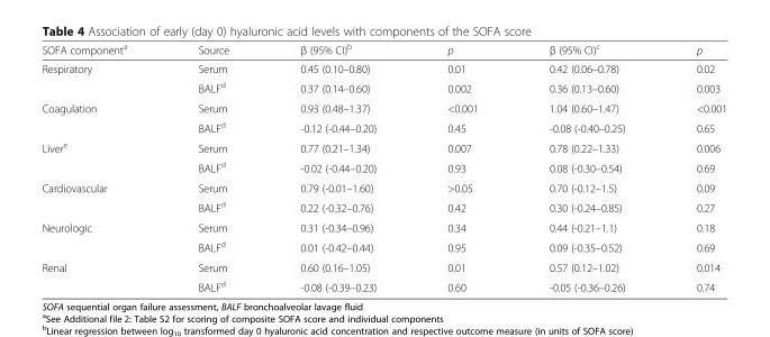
<table><thead><tr><td>SOFA component<sup>a</sup></td><td>Source</td><td>β (95% CI)<sup>b</sup></td><td>p</td><td>β (95% CI)<sup>c</sup></td><td>p</td></tr></thead><tbody><tr><td rowspan="2">Respiratory</td><td>Serum</td><td>0.45 (0.10–0.80)</td><td>0.01</td><td>0.42 (0.06–0.78)</td><td>0.02</td></tr><tr><td>BALF<sup>d</sup></td><td>0.37 (0.14–0.60)</td><td>0.002</td><td>0.36 (0.13–0.60)</td><td>0.003</td></tr><tr><td rowspan="2">Coagulation</td><td>Serum</td><td>0.93 (0.48–1.37)</td><td>&lt;0.001</td><td>1.04 (0.60–1.47)</td><td>&lt;0.001</td></tr><tr><td>BALF<sup>d</sup></td><td>-0.12 (-0.44–0.20)</td><td>0.45</td><td>-0.08 (-0.40–0.25)</td><td>0.65</td></tr><tr><td rowspan="2">Liver<sup>e</sup></td><td>Serum</td><td>0.77 (0.21–1.34)</td><td>0.007</td><td>0.78 (0.22–1.33)</td><td>0.006</td></tr><tr><td>BALF<sup>d</sup></td><td>-0.02 (-0.44–0.20)</td><td>0.93</td><td>0.08 (-0.30–0.54)</td><td>0.69</td></tr><tr><td rowspan="2">Cardiovascular</td><td>Serum</td><td>0.79 (-0.01–1.60)</td><td>&gt;0.05</td><td>0.70 (-0.12–1.5)</td><td>0.09</td></tr><tr><td>BALF<sup>d</sup></td><td>0.22 (-0.32–0.76)</td><td>0.42</td><td>0.30 (-0.24–0.85)</td><td>0.27</td></tr><tr><td rowspan="2">Neurologic</td><td>Serum</td><td>0.31 (-0.34–0.96)</td><td>0.34</td><td>0.44 (-0.21–1.1)</td><td>0.18</td></tr><tr><td>BALF<sup>d</sup></td><td>0.01 (-0.42–0.44)</td><td>0.95</td><td>0.09 (-0.35–0.52)</td><td>0.69</td></tr><tr><td rowspan="2">Renal</td><td>Serum</td><td>0.60 (0.16–1.05)</td><td>0.01</td><td>0.57 (0.12–1.02)</td><td>0.014</td></tr><tr><td>BALF<sup>d</sup></td><td>-0.08 (-0.39–0.23)</td><td>0.60</td><td>-0.05 (-0.36–0.26)</td><td>0.74</td></tr></tbody></table>